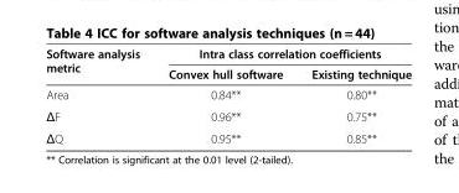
<table><thead><tr><td rowspan="2">Software analysis metric</td><td colspan="2">Intra class correlation coefficients</td></tr><tr><td>Convex hull software</td><td>Existing technique</td></tr></thead><tbody><tr><td>Area</td><td>0.84**</td><td>0.80**</td></tr><tr><td>ΔF</td><td>0.96**</td><td>0.75**</td></tr><tr><td>ΔQ</td><td>0.95**</td><td>0.85**</td></tr></tbody></table>